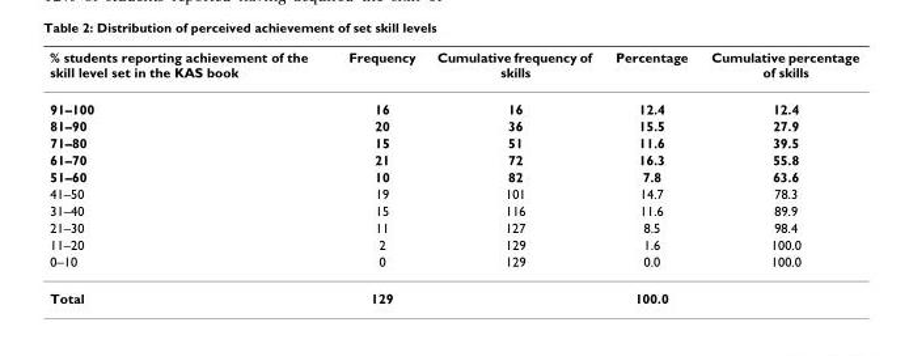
<table><thead><tr><td>% students reporting achievement of the skill level set in the KAS book</td><td>Frequency</td><td>Cumulative frequency of skills</td><td>Percentage</td><td>Cumulative percentage of skills</td></tr></thead><tbody><tr><td>91–100</td><td>16</td><td>16</td><td>12.4</td><td>12.4</td></tr><tr><td>81–90</td><td>20</td><td>36</td><td>15.5</td><td>27.9</td></tr><tr><td>71–80</td><td>15</td><td>51</td><td>11.6</td><td>39.5</td></tr><tr><td>61–70</td><td>21</td><td>72</td><td>16.3</td><td>55.8</td></tr><tr><td>51–60</td><td>10</td><td>82</td><td>7.8</td><td>63.6</td></tr><tr><td>41–50</td><td>19</td><td>101</td><td>14.7</td><td>78.3</td></tr><tr><td>31–40</td><td>15</td><td>116</td><td>11.6</td><td>89.9</td></tr><tr><td>21–30</td><td>11</td><td>127</td><td>8.5</td><td>98.4</td></tr><tr><td>11–20</td><td>2</td><td>129</td><td>1.6</td><td>100.0</td></tr><tr><td>0–10</td><td>0</td><td>129</td><td>0.0</td><td>100.0</td></tr><tr><td>Total</td><td>129</td><td></td><td>100.0</td><td></td></tr></tbody></table>